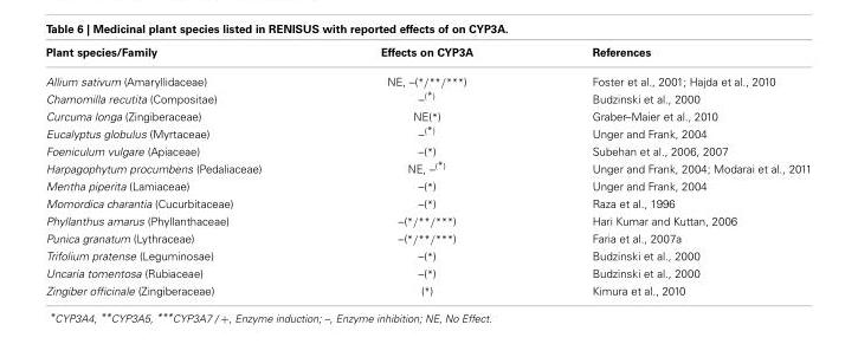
<table><thead><tr><td>Plant species/Family</td><td>Effects on CYP3A</td><td>References</td></tr></thead><tbody><tr><td>Allium sativum (Amaryllidaceae)</td><td>NE, –(*/**/***)</td><td>Foster et al., 2001; Hajda et al., 2010</td></tr><tr><td>Chamomilla recutita (Compositae)</td><td>–(*)</td><td>Budzinski et al., 2000</td></tr><tr><td>Curcuma longa (Zingiberaceae)</td><td>NE(*)</td><td>Graber–Maier et al., 2010</td></tr><tr><td>Eucalyptus globulus (Myrtaceae)</td><td>–(*)</td><td>Unger and Frank, 2004</td></tr><tr><td>Foeniculum vulgare (Apiaceae)</td><td>–(*)</td><td>Subehan et al., 2006, 2007</td></tr><tr><td>Harpagophytum procumbens (Pedaliaceae)</td><td>NE, –(*)</td><td>Unger and Frank, 2004; Modarai et al., 2011</td></tr><tr><td>Mentha piperita (Lamiaceae)</td><td>–(*)</td><td>Unger and Frank, 2004</td></tr><tr><td>Momordica charantia (Cucurbitaceae)</td><td>–(*)</td><td>Raza et al., 1996</td></tr><tr><td>Phyllanthus amarus (Phyllanthaceae)</td><td>–(*/**/***)</td><td>Hari Kumar and Kuttan, 2006</td></tr><tr><td>Punica granatum (Lythraceae)</td><td>–(*/**/***)</td><td>Faria et al., 2007a</td></tr><tr><td>Trifolium pratense (Leguminosae)</td><td>–(*)</td><td>Budzinski et al., 2000</td></tr><tr><td>Uncaria tomentosa (Rubiaceae)</td><td>–(*)</td><td>Budzinski et al., 2000</td></tr><tr><td>Zingiber officinale (Zingiberaceae)</td><td>(*)</td><td>Kimura et al., 2010</td></tr></tbody></table>